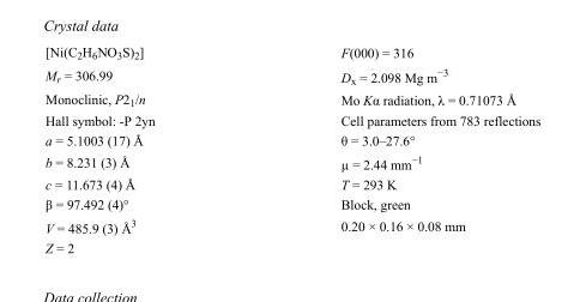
<table><tbody><tr><td>[Ni(C<sub>2</sub>H<sub>6</sub>NO<sub>3</sub>S)<sub>2</sub>]</td><td>F(000) = 316</td></tr><tr><td>M<sub>r</sub> = 306.99</td><td>D<sub>x</sub> = 2.098 Mg m<sup>−3</sup></td></tr><tr><td>Monoclinic, P2<sub>1</sub>/n</td><td>Mo Kα radiation, λ = 0.71073 Å</td></tr><tr><td>Hall symbol: -P 2yn</td><td>Cell parameters from 783 reflections</td></tr><tr><td>a = 5.1003 (17) Å</td><td>θ = 3.0–27.6°</td></tr><tr><td>b = 8.231 (3) Å</td><td>µ = 2.44 mm<sup>−1</sup></td></tr><tr><td>c = 11.673 (4) Å</td><td>T = 293 K</td></tr><tr><td>β = 97.492 (4)°</td><td>Block, green</td></tr><tr><td>V = 485.9 (3) Å<sup>3</sup></td><td>0.20 × 0.16 × 0.08 mm</td></tr><tr><td>Z = 2</td><td></td></tr></tbody></table>